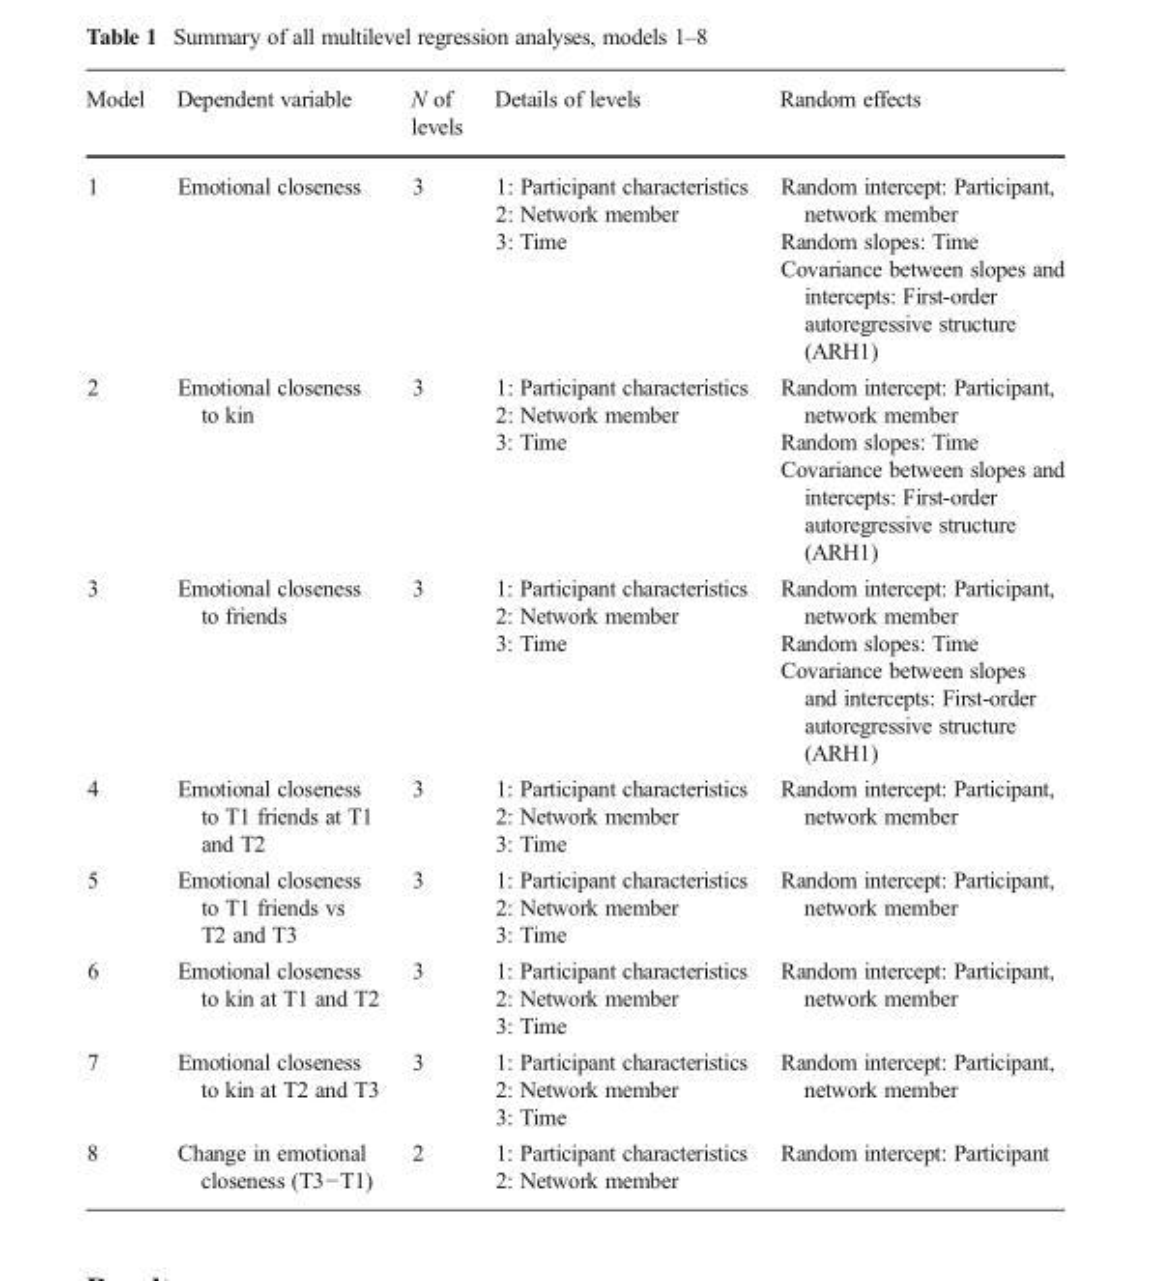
<table><thead><tr><td>Model</td><td>Dependent variable</td><td>N of levels</td><td>Details of levels</td><td>Random effects</td></tr></thead><tbody><tr><td>1</td><td>Emotional closeness</td><td>3</td><td>1: Participant characteristics 2: Network member 3: Time</td><td>Random intercept: Participant, network member Random slopes: Time Covariance between slopes and intercepts: First-order autoregressive structure (ARH1)</td></tr><tr><td>2</td><td>Emotional closeness to kin</td><td>3</td><td>1: Participant characteristics 2: Network member 3: Time</td><td>Random intercept: Participant, network member Random slopes: Time Covariance between slopes and intercepts: First-order autoregressive structure (ARH1)</td></tr><tr><td>3</td><td>Emotional closeness to friends</td><td>3</td><td>1: Participant characteristics 2: Network member 3: Time</td><td>Random intercept: Participant, network member Random slopes: Time Covariance between slopes and intercepts: First-order autoregressive structure (ARH1)</td></tr><tr><td>4</td><td>Emotional closeness to T1 friends at T1 and T2</td><td>3</td><td>1: Participant characteristics 2: Network member 3: Time</td><td>Random intercept: Participant, network member</td></tr><tr><td>5</td><td>Emotional closeness to T1 friends vs T2 and T3</td><td>3</td><td>1: Participant characteristics 2: Network member 3: Time</td><td>Random intercept: Participant, network member</td></tr><tr><td>6</td><td>Emotional closeness to kin at T1 and T2</td><td>3</td><td>1: Participant characteristics 2: Network member 3: Time</td><td>Random intercept: Participant, network member</td></tr><tr><td>7</td><td>Emotional closeness to kin at T2 and T3</td><td>3</td><td>1: Participant characteristics 2: Network member 3: Time</td><td>Random intercept: Participant, network member</td></tr><tr><td>8</td><td>Change in emotional closeness (T3−T1)</td><td>2</td><td>1: Participant characteristics 2: Network member</td><td>Random intercept: Participant</td></tr></tbody></table>